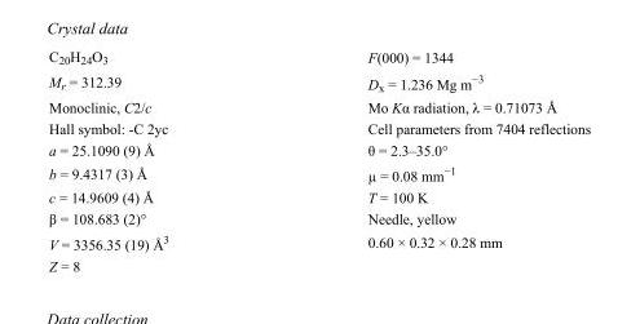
<table><tbody><tr><td>C<sub>20</sub>H<sub>24</sub>O<sub>3</sub></td><td>F(000) = 1344</td></tr><tr><td>M<sub>r</sub> = 312.39</td><td>D<sub>x</sub> = 1.236 Mg m<sup>−3</sup></td></tr><tr><td>Monoclinic, C2/c</td><td>Mo Kα radiation, λ = 0.71073 Å</td></tr><tr><td>Hall symbol: -C 2yc</td><td>Cell parameters from 7404 reflections</td></tr><tr><td>a = 25.1090 (9) Å</td><td>θ = 2.3–35.0°</td></tr><tr><td>b = 9.4317 (3) Å</td><td>µ = 0.08 mm<sup>−1</sup></td></tr><tr><td>c = 14.9609 (4) Å</td><td>T = 100 K</td></tr><tr><td>β = 108.683 (2)°</td><td>Needle, yellow</td></tr><tr><td>V = 3356.35 (19) Å<sup>3</sup></td><td>0.60 × 0.32 × 0.28 mm</td></tr><tr><td>Z = 8</td><td></td></tr></tbody></table>